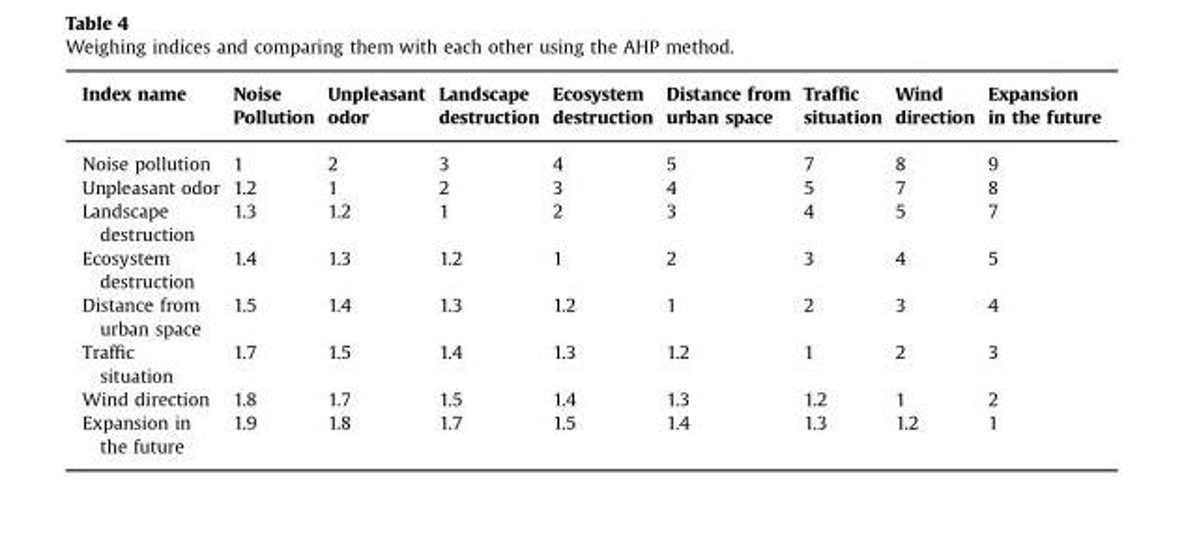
<table><thead><tr><td rowspan="2">Index name</td><td rowspan="2">Noise Pollution</td><td rowspan="2">Unpleasant odor</td><td rowspan="2">Landscape destruction</td><td rowspan="2">Ecosystem destruction</td><td rowspan="2">Distance from urban space</td><td rowspan="2">Traffic situation</td><td rowspan="2">Wind direction</td><td rowspan="2">Expansion in the future</td></tr><tr></tr></thead><tbody><tr><td>Noise pollution</td><td>1</td><td>2</td><td>3</td><td>4</td><td>5</td><td>7</td><td>8</td><td>9</td></tr><tr><td>Unpleasant odor</td><td>1.2</td><td>1</td><td>2</td><td>3</td><td>4</td><td>5</td><td>7</td><td>8</td></tr><tr><td>Landscape destruction</td><td>1.3</td><td>1.2</td><td>1</td><td>2</td><td>3</td><td>4</td><td>5</td><td>7</td></tr><tr><td>Ecosystem destruction</td><td>1.4</td><td>1.3</td><td>1.2</td><td>1</td><td>2</td><td>3</td><td>4</td><td>5</td></tr><tr><td>Distance from urban space</td><td>1.5</td><td>1.4</td><td>1.3</td><td>1.2</td><td>1</td><td>2</td><td>3</td><td>4</td></tr><tr><td>Traffic situation</td><td>1.7</td><td>1.5</td><td>1.4</td><td>1.3</td><td>1.2</td><td>1</td><td>2</td><td>3</td></tr><tr><td>Wind direction</td><td>1.8</td><td>1.7</td><td>1.5</td><td>1.4</td><td>1.3</td><td>1.2</td><td>1</td><td>2</td></tr><tr><td>Expansion in the future</td><td>1.9</td><td>1.8</td><td>1.7</td><td>1.5</td><td>1.4</td><td>1.3</td><td>1.2</td><td>1</td></tr></tbody></table>